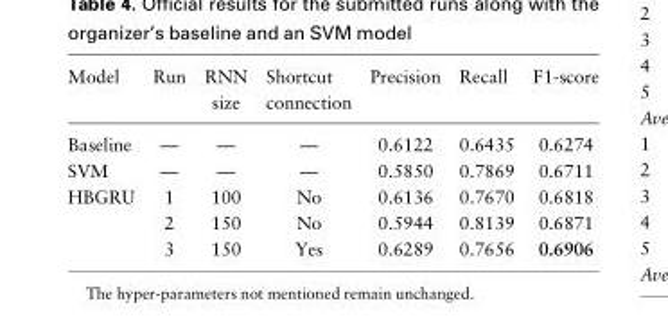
<table><thead><tr><td>Model</td><td>Run</td><td>RNN size</td><td>Shortcut connection</td><td>Precision</td><td>Recall</td><td>F1-score</td></tr></thead><tbody><tr><td>Baseline</td><td>—</td><td>—</td><td>—</td><td>0.6122</td><td>0.6435</td><td>0.6274</td></tr><tr><td>SVM</td><td>—</td><td>—</td><td>—</td><td>0.5850</td><td>0.7869</td><td>0.6711</td></tr><tr><td rowspan="3">HBGRU</td><td>1</td><td>100</td><td>No</td><td>0.6136</td><td>0.7670</td><td>0.6818</td></tr><tr><td>2</td><td>150</td><td>No</td><td>0.5944</td><td>0.8139</td><td>0.6871</td></tr><tr><td>3</td><td>150</td><td>Yes</td><td>0.6289</td><td>0.7656</td><td>0.6906</td></tr></tbody></table>